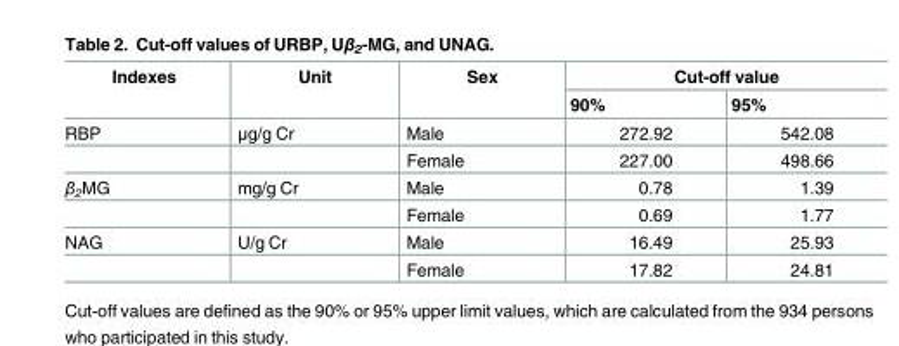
<table><thead><tr><td rowspan="2">Indexes</td><td rowspan="2">Unit</td><td rowspan="2">Sex</td><td colspan="2">Cut-off value</td></tr><tr><td>90%</td><td>95%</td></tr></thead><tbody><tr><td rowspan="2">RBP</td><td>μg/g Cr</td><td>Male</td><td>272.92</td><td>542.08</td></tr><tr><td></td><td>Female</td><td>227.00</td><td>498.66</td></tr><tr><td rowspan="2">β<sub>2</sub>MG</td><td>mg/g Cr</td><td>Male</td><td>0.78</td><td>1.39</td></tr><tr><td></td><td>Female</td><td>0.69</td><td>1.77</td></tr><tr><td rowspan="2">NAG</td><td>U/g Cr</td><td>Male</td><td>16.49</td><td>25.93</td></tr><tr><td></td><td>Female</td><td>17.82</td><td>24.81</td></tr></tbody></table>